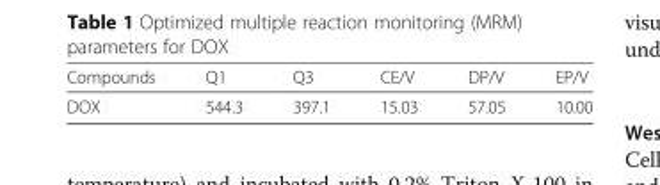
<table><thead><tr><td>Compounds</td><td>Q1</td><td>Q3</td><td>CE/V</td><td>DP/V</td><td>EP/V</td></tr></thead><tbody><tr><td>DOX</td><td>544.3</td><td>397.1</td><td>15.03</td><td>57.05</td><td>10.00</td></tr></tbody></table>